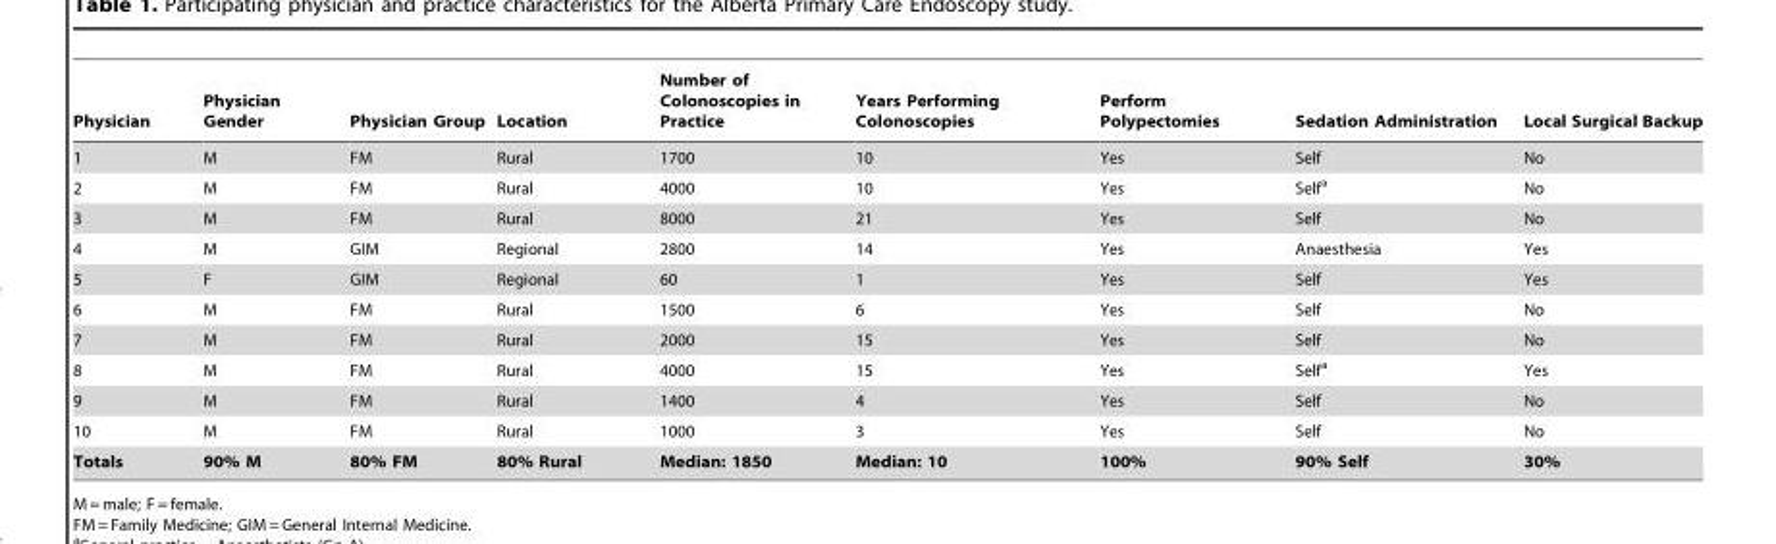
<table><thead><tr><td>Physician</td><td>Physician Gender</td><td>Physician Group</td><td>Location</td><td>Number of Colonoscopies in Practice</td><td>Years Performing Colonoscopies</td><td>Perform Polypectomies</td><td>Sedation Administration</td><td>Local Surgical Backup</td></tr></thead><tbody><tr><td>1</td><td>M</td><td>FM</td><td>Rural</td><td>1700</td><td>10</td><td>Yes</td><td>Self</td><td>No</td></tr><tr><td>2</td><td>M</td><td>FM</td><td>Rural</td><td>4000</td><td>10</td><td>Yes</td><td>Self<sup>a</sup></td><td>No</td></tr><tr><td>3</td><td>M</td><td>FM</td><td>Rural</td><td>8000</td><td>21</td><td>Yes</td><td>Self</td><td>No</td></tr><tr><td>4</td><td>M</td><td>GIM</td><td>Regional</td><td>2800</td><td>14</td><td>Yes</td><td>Anaesthesia</td><td>Yes</td></tr><tr><td>5</td><td>F</td><td>GIM</td><td>Regional</td><td>60</td><td>1</td><td>Yes</td><td>Self</td><td>Yes</td></tr><tr><td>6</td><td>M</td><td>FM</td><td>Rural</td><td>1500</td><td>6</td><td>Yes</td><td>Self</td><td>No</td></tr><tr><td>7</td><td>M</td><td>FM</td><td>Rural</td><td>2000</td><td>15</td><td>Yes</td><td>Self</td><td>No</td></tr><tr><td>8</td><td>M</td><td>FM</td><td>Rural</td><td>4000</td><td>15</td><td>Yes</td><td>Self<sup>a</sup></td><td>Yes</td></tr><tr><td>9</td><td>M</td><td>FM</td><td>Rural</td><td>1400</td><td>4</td><td>Yes</td><td>Self</td><td>No</td></tr><tr><td>10</td><td>M</td><td>FM</td><td>Rural</td><td>1000</td><td>3</td><td>Yes</td><td>Self</td><td>No</td></tr><tr><td>Totals</td><td>90% M</td><td>80% FM</td><td>80% Rural</td><td>Median: 1850</td><td>Median: 10</td><td>100%</td><td>90% Self</td><td>30%</td></tr></tbody></table>